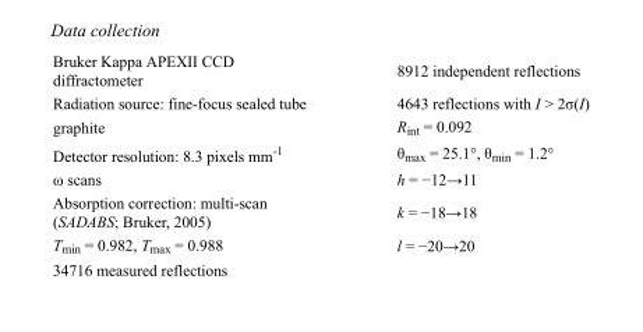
<table><tbody><tr><td>Bruker Kappa APEXII CCD diffractometer</td><td>8912 independent reflections</td></tr><tr><td>Radiation source: fine-focus sealed tube</td><td>4643 reflections with I &gt; 2σ(I)</td></tr><tr><td>graphite</td><td>R<sub>int</sub> = 0.092</td></tr><tr><td>Detector resolution: 8.3 pixels mm<sup>-1</sup></td><td>θ<sub>max</sub> = 25.1°, θ<sub>min</sub> = 1.2°</td></tr><tr><td>ω scans</td><td>h = −12→11</td></tr><tr><td>Absorption correction: multi-scan (SADABS; Bruker, 2005)</td><td>k = −18→18</td></tr><tr><td>T<sub>min</sub> = 0.982, T<sub>max</sub> = 0.988</td><td>l = −20→20</td></tr><tr><td>34716 measured reflections</td><td></td></tr></tbody></table>